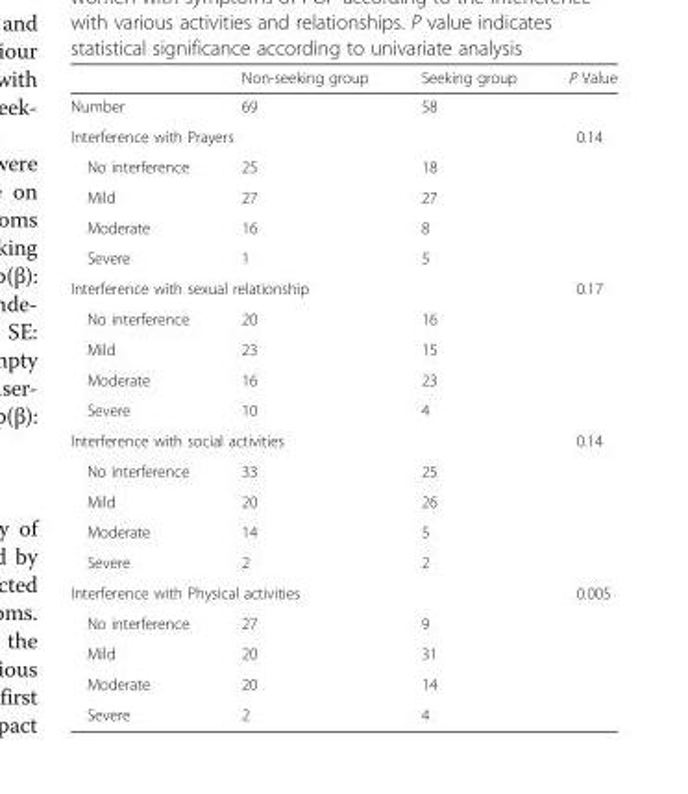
<table><thead><tr><td></td><td>Non-seeking group</td><td>Seeking group</td><td>P Value</td></tr></thead><tbody><tr><td>Number</td><td>69</td><td>58</td><td></td></tr><tr><td colspan="3">Interference with Prayers</td><td>0.14</td></tr><tr><td>No interference</td><td>25</td><td>18</td><td></td></tr><tr><td>Mild</td><td>27</td><td>27</td><td></td></tr><tr><td>Moderate</td><td>16</td><td>8</td><td></td></tr><tr><td>Severe</td><td>1</td><td>5</td><td></td></tr><tr><td colspan="3">Interference with sexual relationship</td><td>0.17</td></tr><tr><td>No interference</td><td>20</td><td>16</td><td></td></tr><tr><td>Mild</td><td>23</td><td>15</td><td></td></tr><tr><td>Moderate</td><td>16</td><td>23</td><td></td></tr><tr><td>Severe</td><td>10</td><td>4</td><td></td></tr><tr><td colspan="3">Interference with social activities</td><td>0.14</td></tr><tr><td>No interference</td><td>33</td><td>25</td><td></td></tr><tr><td>Mild</td><td>20</td><td>26</td><td></td></tr><tr><td>Moderate</td><td>14</td><td>5</td><td></td></tr><tr><td>Severe</td><td>2</td><td>2</td><td></td></tr><tr><td colspan="3">Interference with Physical activities</td><td>0.005</td></tr><tr><td>No interference</td><td>27</td><td>9</td><td></td></tr><tr><td>Mild</td><td>20</td><td>31</td><td></td></tr><tr><td>Moderate</td><td>20</td><td>14</td><td></td></tr><tr><td>Severe</td><td>2</td><td>4</td><td></td></tr></tbody></table>